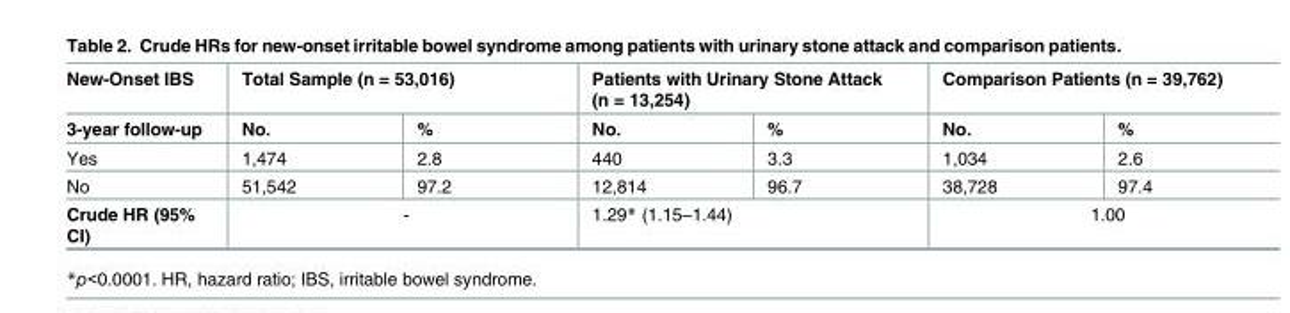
<table><thead><tr><td rowspan="2">New-Onset IBS 3-year follow-up</td><td colspan="2">Total Sample (n = 53,016)</td><td colspan="2">Patients with Urinary Stone Attack (n = 13,254)</td><td colspan="2">Comparison Patients (n = 39,762)</td></tr><tr><td>No.</td><td>%</td><td>No.</td><td>%</td><td>No.</td><td>%</td></tr></thead><tbody><tr><td>Yes</td><td>1,474</td><td>2.8</td><td>440</td><td>3.3</td><td>1,034</td><td>2.6</td></tr><tr><td>No</td><td>51,542</td><td>97.2</td><td>12,814</td><td>96.7</td><td>38,728</td><td>97.4</td></tr><tr><td>Crude HR (95% CI)</td><td colspan="2">-</td><td colspan="2">1.29* (1.15–1.44)</td><td colspan="2">1.00</td></tr></tbody></table>